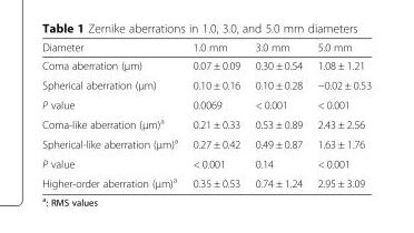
<table><thead><tr><td>Diameter</td><td>1.0 mm</td><td>3.0 mm</td><td>5.0 mm</td></tr></thead><tbody><tr><td>Coma aberration (μm)</td><td>0.07 ± 0.09</td><td>0.30 ± 0.54</td><td>1.08 ± 1.21</td></tr><tr><td>Spherical aberration (μm)</td><td>0.10 ± 0.16</td><td>0.10 ± 0.28</td><td>−0.02 ± 0.53</td></tr><tr><td>P value</td><td>0.0069</td><td>&lt; 0.001</td><td>&lt; 0.001</td></tr><tr><td>Coma-like aberration (μm)<sup>a</sup></td><td>0.21 ± 0.33</td><td>0.53 ± 0.89</td><td>2.43 ± 2.56</td></tr><tr><td>Spherical-like aberration (μm)<sup>a</sup></td><td>0.27 ± 0.42</td><td>0.49 ± 0.87</td><td>1.63 ± 1.76</td></tr><tr><td>P value</td><td>&lt; 0.001</td><td>0.14</td><td>&lt; 0.001</td></tr><tr><td>Higher-order aberration (μm)<sup>a</sup></td><td>0.35 ± 0.53</td><td>0.74 ± 1.24</td><td>2.95 ± 3.09</td></tr></tbody></table>